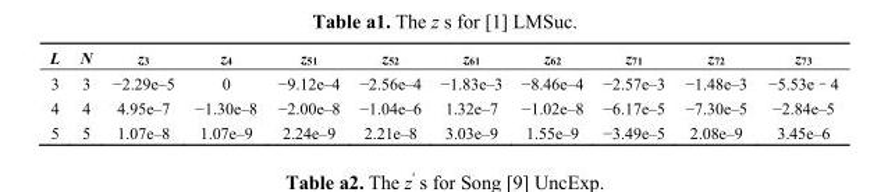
<table><thead><tr><td>L</td><td>N</td><td>z<sub>3</sub></td><td>z<sub>4</sub></td><td>z<sub>51</sub></td><td>z<sub>52</sub></td><td>z<sub>61</sub></td><td>z<sub>62</sub></td><td>z<sub>71</sub></td><td>z<sub>72</sub></td><td>z<sub>73</sub></td></tr></thead><tbody><tr><td>3</td><td>3</td><td>−2.29e–5</td><td>0</td><td>−9.12e–4</td><td>−2.56e–4</td><td>−1.83e–3</td><td>−8.46e–4</td><td>−2.57e–3</td><td>−1.48e–3</td><td>−5.53e–4</td></tr><tr><td>4</td><td>4</td><td>4.95e–7</td><td>−1.30e–8</td><td>−2.00e–8</td><td>−1.04e–6</td><td>1.32e–7</td><td>−1.02e–8</td><td>−6.17e–5</td><td>−7.30e–5</td><td>−2.84e–5</td></tr><tr><td>5</td><td>5</td><td>1.07e–8</td><td>1.07e–9</td><td>2.24e–9</td><td>2.21e–8</td><td>3.03e–9</td><td>1.55e–9</td><td>−3.49e–5</td><td>2.08e–9</td><td>3.45e–6</td></tr></tbody></table>